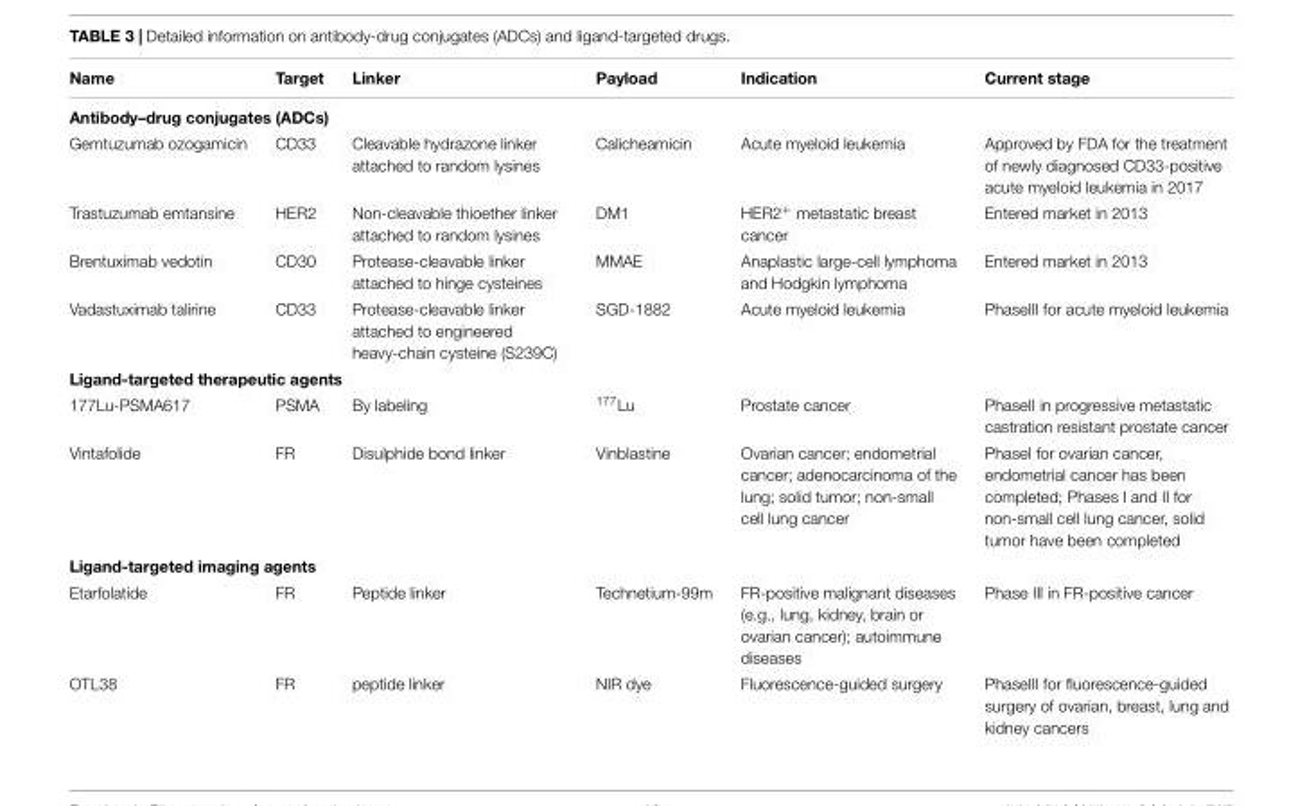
<table><thead><tr><td>Name</td><td>Target</td><td>Linker</td><td>Payload</td><td>Indication</td><td>Current stage</td></tr></thead><tbody><tr><td colspan="6">Antibody–drug conjugates (ADCs)</td></tr><tr><td>Gemtuzumab ozogamicin</td><td>CD33</td><td>Cleavable hydrazone linker attached to random lysines</td><td>Calicheamicin</td><td>Acute myeloid leukemia</td><td>Approved by FDA for the treatment of newly diagnosed CD33-positive acute myeloid leukemia in 2017</td></tr><tr><td>Trastuzumab emtansine</td><td>HER2</td><td>Non-cleavable thioether linker attached to random lysines</td><td>DM1</td><td>HER2<sup>+</sup> metastatic breast cancer</td><td>Entered market in 2013</td></tr><tr><td>Brentuximab vedotin</td><td>CD30</td><td>Protease-cleavable linker attached to hinge cysteines</td><td>MMAE</td><td>Anaplastic large-cell lymphoma and Hodgkin lymphoma</td><td>Entered market in 2013</td></tr><tr><td>Vadastuximab talirine</td><td>CD33</td><td>Protease-cleavable linker attached to engineered heavy-chain cysteine (S239C)</td><td>SGD-1882</td><td>Acute myeloid leukemia</td><td>PhaseIII for acute myeloid leukemia</td></tr><tr><td colspan="6">Ligand-targeted therapeutic agents</td></tr><tr><td>177Lu-PSMA617</td><td>PSMA</td><td>By labeling</td><td><sup>177</sup>Lu</td><td>Prostate cancer</td><td>PhaseII in progressive metastatic castration resistant prostate cancer</td></tr><tr><td>Vintafolide</td><td>FR</td><td>Disulphide bond linker</td><td>Vinblastine</td><td>Ovarian cancer; endometrial cancer; adenocarcinoma of the lung; solid tumor; non-small cell lung cancer</td><td>PhaseI for ovarian cancer, endometrial cancer has been completed; Phases I and II for non-small cell lung cancer, solid tumor have been completed</td></tr><tr><td colspan="6">Ligand-targeted imaging agents</td></tr><tr><td>Etarfolatide</td><td>FR</td><td>Peptide linker</td><td>Technetium-99m</td><td>FR-positive malignant diseases (e.g., lung, kidney, brain or ovarian cancer); autoimmune diseases</td><td>Phase III in FR-positive cancer</td></tr><tr><td>OTL38</td><td>FR</td><td>peptide linker</td><td>NIR dye</td><td>Fluorescence-guided surgery</td><td>PhaseIII for fluorescence-guided surgery of ovarian, breast, lung and kidney cancers</td></tr></tbody></table>